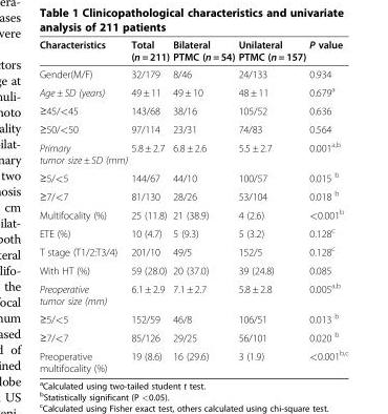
<table><thead><tr><td>Characteristics</td><td>Total (n = 211)</td><td>Bilateral PTMC (n = 54)</td><td>Unilateral PTMC (n = 157)</td><td>P value</td></tr></thead><tbody><tr><td>Gender(M/F)</td><td>32/179</td><td>8/46</td><td>24/133</td><td>0.934</td></tr><tr><td>Age ± SD (years)</td><td>49 ± 11</td><td>49 ± 10</td><td>48 ± 11</td><td>0.679<sup>a</sup></td></tr><tr><td>≥45/&lt;45</td><td>143/68</td><td>38/16</td><td>105/52</td><td>0.636</td></tr><tr><td>≥50/&lt;50</td><td>97/114</td><td>23/31</td><td>74/83</td><td>0.564</td></tr><tr><td>Primary tumor size ± SD (mm)</td><td>5.8 ± 2.7</td><td>6.8 ± 2.6</td><td>5.5 ± 2.7</td><td>0.001<sup>a,b</sup></td></tr><tr><td>≥5/&lt;5</td><td>144/67</td><td>44/10</td><td>100/57</td><td>0.015 <sup>b</sup></td></tr><tr><td>≥7/&lt;7</td><td>81/130</td><td>28/26</td><td>53/104</td><td>0.018 <sup>b</sup></td></tr><tr><td>Multifocality (%)</td><td>25 (11.8)</td><td>21 (38.9)</td><td>4 (2.6)</td><td>&lt;0.001<sup>b</sup></td></tr><tr><td>ETE (%)</td><td>10 (4.7)</td><td>5 (9.3)</td><td>5 (3.2)</td><td>0.128<sup>c</sup></td></tr><tr><td>T stage (T1/2:T3/4)</td><td>201/10</td><td>49/5</td><td>152/5</td><td>0.128<sup>c</sup></td></tr><tr><td>With HT (%)</td><td>59 (28.0)</td><td>20 (37.0)</td><td>39 (24.8)</td><td>0.085</td></tr><tr><td>Preoperative tumor size (mm)</td><td>6.1 ± 2.9</td><td>7.1 ± 2.7</td><td>5.8 ± 2.8</td><td>0.005<sup>a,b</sup></td></tr><tr><td>≥5/&lt;5</td><td>152/59</td><td>46/8</td><td>106/51</td><td>0.013 <sup>b</sup></td></tr><tr><td>≥7/&lt;7</td><td>85/126</td><td>29/25</td><td>56/101</td><td>0.020 <sup>b</sup></td></tr><tr><td>Preoperative multifocality (%)</td><td>19 (8.6)</td><td>16 (29.6)</td><td>3 (1.9)</td><td>&lt;0.001<sup>b,c</sup></td></tr></tbody></table>